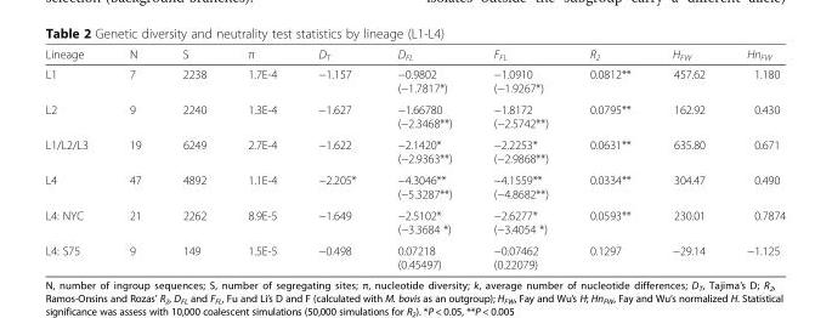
<table><thead><tr><td>Lineage</td><td>N</td><td>S</td><td>π</td><td>D<sub>T</sub></td><td>D<sub>FL</sub></td><td>F<sub>FL</sub></td><td>R<sub>2</sub></td><td>H<sub>FW</sub></td><td>Hn<sub>FW</sub></td></tr></thead><tbody><tr><td>L1</td><td>7</td><td>2238</td><td>1.7E-4</td><td>−1.157</td><td>−0.9802 (−1.7817*)</td><td>−1.0910 (−1.9267*)</td><td>0.0812**</td><td>457.62</td><td>1.180</td></tr><tr><td>L2</td><td>9</td><td>2240</td><td>1.3E-4</td><td>−1.627</td><td>−1.66780 (−2.3468**)</td><td>−1.8172 (−2.5742**)</td><td>0.0795**</td><td>162.92</td><td>0.430</td></tr><tr><td>L1/L2/L3</td><td>19</td><td>6249</td><td>2.7E-4</td><td>−1.622</td><td>−2.1420* (−2.9363**)</td><td>−2.2253* (−2.9868**)</td><td>0.0631**</td><td>635.80</td><td>0.671</td></tr><tr><td>L4</td><td>47</td><td>4892</td><td>1.1E-4</td><td>−2.205*</td><td>−4.3046** (−5.3287**)</td><td>−4.1559** (−4.8682**)</td><td>0.0334**</td><td>304.47</td><td>0.490</td></tr><tr><td>L4: NYC</td><td>21</td><td>2262</td><td>8.9E-5</td><td>−1.649</td><td>−2.5102* (−3.3684 *)</td><td>−2.6277* (−3.4054 *)</td><td>0.0593**</td><td>230.01</td><td>0.7874</td></tr><tr><td>L4: S75</td><td>9</td><td>149</td><td>1.5E-5</td><td>−0.498</td><td>0.07218 (0.45497)</td><td>−0.07462 (0.22079)</td><td>0.1297</td><td>−29.14</td><td>−1.125</td></tr></tbody></table>